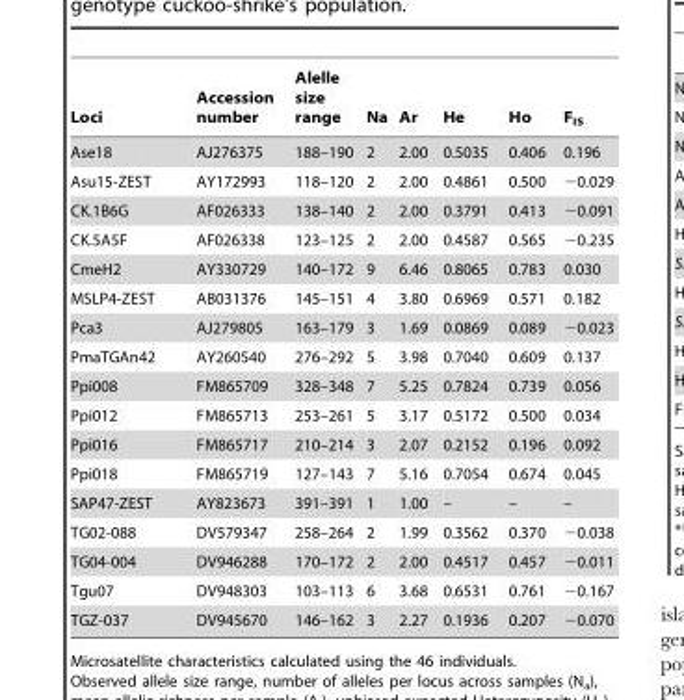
<table><thead><tr><td>Loci</td><td>Accession number</td><td>Alelle size range</td><td>Na</td><td>Ar</td><td>He</td><td>Ho</td><td>F<sub>IS</sub></td></tr></thead><tbody><tr><td>Ase18</td><td>AJ276375</td><td>188–190</td><td>2</td><td>2.00</td><td>0.5035</td><td>0.406</td><td>0.196</td></tr><tr><td>Asu15-ZEST</td><td>AY172993</td><td>118–120</td><td>2</td><td>2.00</td><td>0.4861</td><td>0.500</td><td>−0.029</td></tr><tr><td>CK.1B6G</td><td>AF026333</td><td>138–140</td><td>2</td><td>2.00</td><td>0.3791</td><td>0.413</td><td>−0.091</td></tr><tr><td>CK.5A5F</td><td>AF026338</td><td>123–125</td><td>2</td><td>2.00</td><td>0.4587</td><td>0.565</td><td>−0.235</td></tr><tr><td>CmeH2</td><td>AY330729</td><td>140–172</td><td>9</td><td>6.46</td><td>0.8065</td><td>0.783</td><td>0.030</td></tr><tr><td>MSLP4-ZEST</td><td>AB031376</td><td>145–151</td><td>4</td><td>3.80</td><td>0.6969</td><td>0.571</td><td>0.182</td></tr><tr><td>Pca3</td><td>AJ279805</td><td>163–179</td><td>3</td><td>1.69</td><td>0.0869</td><td>0.089</td><td>−0.023</td></tr><tr><td>PmaTGAn42</td><td>AY260540</td><td>276–292</td><td>5</td><td>3.98</td><td>0.7040</td><td>0.609</td><td>0.137</td></tr><tr><td>Ppi008</td><td>FM865709</td><td>328–348</td><td>7</td><td>5.25</td><td>0.7824</td><td>0.739</td><td>0.056</td></tr><tr><td>Ppi012</td><td>FM865713</td><td>253–261</td><td>5</td><td>3.17</td><td>0.5172</td><td>0.500</td><td>0.034</td></tr><tr><td>Ppi016</td><td>FM865717</td><td>210–214</td><td>3</td><td>2.07</td><td>0.2152</td><td>0.196</td><td>0.092</td></tr><tr><td>Ppi018</td><td>FM865719</td><td>127–143</td><td>7</td><td>5.16</td><td>0.7054</td><td>0.674</td><td>0.045</td></tr><tr><td>SAP47-ZEST</td><td>AY823673</td><td>391–391</td><td>1</td><td>1.00</td><td>–</td><td>–</td><td>–</td></tr><tr><td>TG02-088</td><td>DV579347</td><td>258–264</td><td>2</td><td>1.99</td><td>0.3562</td><td>0.370</td><td>−0.038</td></tr><tr><td>TG04-004</td><td>DV946288</td><td>170–172</td><td>2</td><td>2.00</td><td>0.4517</td><td>0.457</td><td>−0.011</td></tr><tr><td>Tgu07</td><td>DV948303</td><td>103–113</td><td>6</td><td>3.68</td><td>0.6531</td><td>0.761</td><td>−0.167</td></tr><tr><td>TGZ-037</td><td>DV945670</td><td>146–162</td><td>3</td><td>2.27</td><td>0.1936</td><td>0.207</td><td>−0.070</td></tr></tbody></table>